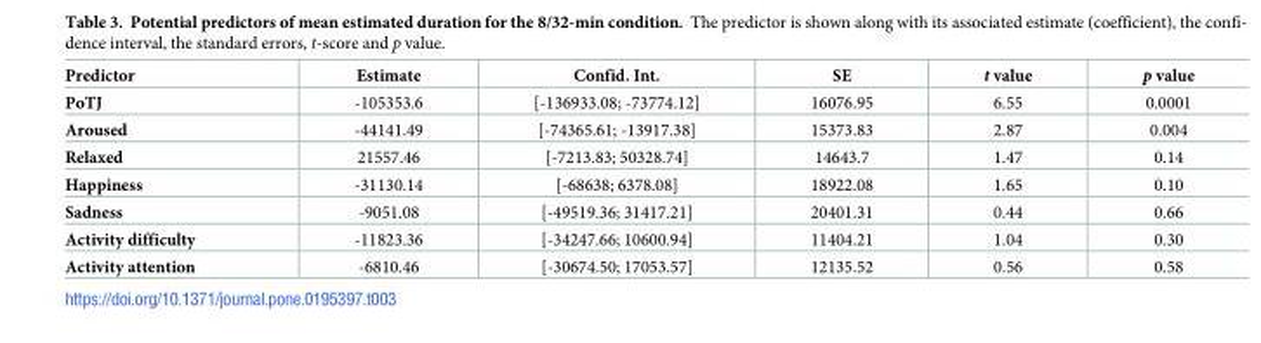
<table><thead><tr><td>Predictor</td><td>Estimate</td><td>Confid. Int.</td><td>SE</td><td>t value</td><td>p value</td></tr></thead><tbody><tr><td>PoTJ</td><td>-105353.6</td><td>[-136933.08; -73774.12]</td><td>16076.95</td><td>6.55</td><td>0.0001</td></tr><tr><td>Aroused</td><td>-44141.49</td><td>[-74365.61; -13917.38]</td><td>15373.83</td><td>2.87</td><td>0.004</td></tr><tr><td>Relaxed</td><td>21557.46</td><td>[-7213.83; 50328.74]</td><td>14643.7</td><td>1.47</td><td>0.14</td></tr><tr><td>Happiness</td><td>-31130.14</td><td>[-68638; 6378.08]</td><td>18922.08</td><td>1.65</td><td>0.10</td></tr><tr><td>Sadness</td><td>-9051.08</td><td>[-49519.36; 31417.21]</td><td>20401.31</td><td>0.44</td><td>0.66</td></tr><tr><td>Activity difficulty</td><td>-11823.36</td><td>[-34247.66; 10600.94]</td><td>11404.21</td><td>1.04</td><td>0.30</td></tr><tr><td>Activity attention</td><td>-6810.46</td><td>[-30674.50; 17053.57]</td><td>12135.52</td><td>0.56</td><td>0.58</td></tr></tbody></table>